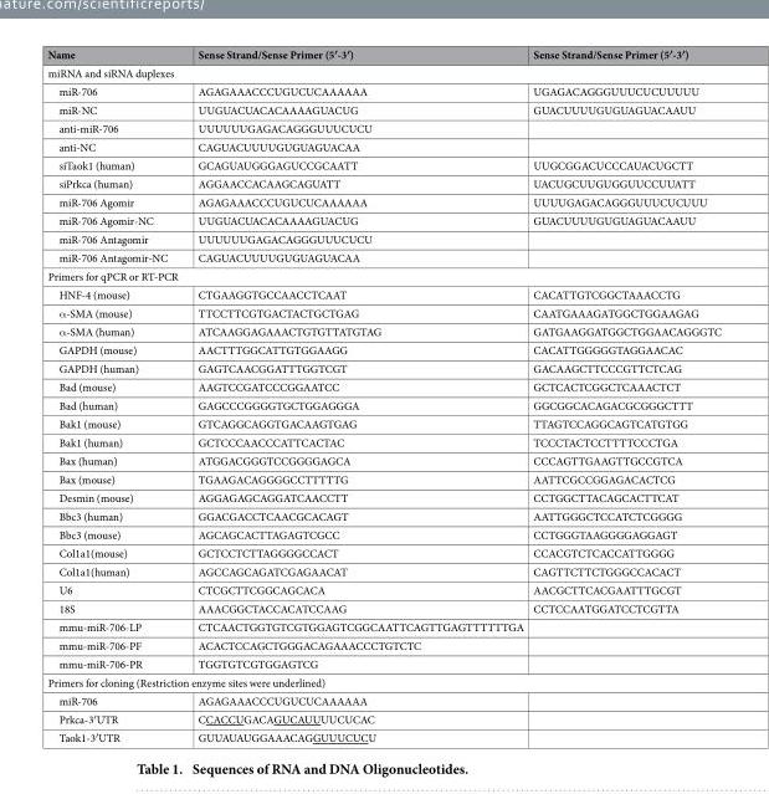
<table><thead><tr><td>Name</td><td>Sense Strand/Sense Primer (5′-3′)</td><td>Sense Strand/Sense Primer (5′-3′)</td></tr></thead><tbody><tr><td colspan="3">miRNA and siRNA duplexes</td></tr><tr><td>miR-706</td><td>AGAGAAACCCUGUCUCAAAAAA</td><td>UGAGACAGGGUUUCUCUUUUU</td></tr><tr><td>miR-NC</td><td>UUGUACUACACAAAAGUACUG</td><td>GUACUUUUGUGUAGUACAAUU</td></tr><tr><td>anti-miR-706</td><td>UUUUUUGAGACAGGGUUUCUCU</td><td></td></tr><tr><td>anti-NC</td><td>CAGUACUUUUGUGUAGUACAA</td><td></td></tr><tr><td>siTaok1 (human)</td><td>GCAGUAUGGGAGUCCGCAATT</td><td>UUGCGGACUCCCAUACUGCTT</td></tr><tr><td>siPrkca (human)</td><td>AGGAACCACAAGCAGUATT</td><td>UACUGCUUGUGGUUCCUUATT</td></tr><tr><td>miR-706 Agomir</td><td>AGAGAAACCCUGUCUCAAAAAA</td><td>UUUUGAGACAGGGUUUCUCUUU</td></tr><tr><td>miR-706 Agomir-NC</td><td>UUGUACUACACAAAAGUACUG</td><td>GUACUUUUGUGUAGUACAAUU</td></tr><tr><td>miR-706 Antagomir</td><td>UUUUUUGAGACAGGGUUUCUCU</td><td></td></tr><tr><td>miR-706 Antagomir-NC</td><td>CAGUACUUUUGUGUAGUACAA</td><td></td></tr><tr><td colspan="3">Primers for qPCR or RT-PCR</td></tr><tr><td>HNF-4 (mouse)</td><td>CTGAAGGTGCCAACCTCAAT</td><td>CACATTGTCGGCTAAACCTG</td></tr><tr><td>α -SMA (mouse)</td><td>TTCCTTCGTGACTACTGCTGAG</td><td>CAATGAAAGATGGCTGGAAGAG</td></tr><tr><td>α -SMA (human)</td><td>ATCAAGGAGAAACTGTGTTATGTAG</td><td>GATGAAGGATGGCTGGAACAGGGTC</td></tr><tr><td>GAPDH (mouse)</td><td>AACTTTGGCATTGTGGAAGG</td><td>CACATTGGGGGTAGGAACAC</td></tr><tr><td>GAPDH (human)</td><td>GAGTCAACGGATTTGGTCGT</td><td>GACAAGCTTCCCGTTCTCAG</td></tr><tr><td>Bad (mouse)</td><td>AAGTCCGATCCCGGAATCC</td><td>GCTCACTCGGCTCAAACTCT</td></tr><tr><td>Bad (human)</td><td>GAGCCCGGGGTGCTGGAGGGA</td><td>GGCGGCACAGACGCGGGCTTT</td></tr><tr><td>Bak1 (mouse)</td><td>GTCAGGCAGGTGACAAGTGAG</td><td>TTAGTCCAGGCAGTCATGTGG</td></tr><tr><td>Bak1 (human)</td><td>GCTCCCAACCCATTCACTAC</td><td>TCCCTACTCCTTTTCCCTGA</td></tr><tr><td>Bax (human)</td><td>ATGGACGGGTCCGGGGAGCA</td><td>CCCAGTTGAAGTTGCCGTCA</td></tr><tr><td>Bax (mouse)</td><td>TGAAGACAGGGGCCTTTTTG</td><td>AATTCGCCGGAGACACTCG</td></tr><tr><td>Desmin (mouse)</td><td>AGGAGAGCAGGATCAACCTT</td><td>CCTGGCTTACAGCACTTCAT</td></tr><tr><td>Bbc3 (human)</td><td>GGACGACCTCAACGCACAGT</td><td>AATTGGGCTCCATCTCGGGG</td></tr><tr><td>Bbc3 (mouse)</td><td>AGCAGCACTTAGAGTCGCC</td><td>CCTGGGTAAGGGGAGGAGT</td></tr><tr><td>Col1a1(mouse)</td><td>GCTCCTCTTAGGGGCCACT</td><td>CCACGTCTCACCATTGGGG</td></tr><tr><td>Col1a1(human)</td><td>AGCCAGCAGATCGAGAACAT</td><td>CAGTTCTTCTGGGCCACACT</td></tr><tr><td>U6</td><td>CTCGCTTCGGCAGCACA</td><td>AACGCTTCACGAATTTGCGT</td></tr><tr><td>18S</td><td>AAACGGCTACCACATCCAAG</td><td>CCTCCAATGGATCCTCGTTA</td></tr><tr><td>mmu-miR-706-LP</td><td>CTCAACTGGTGTCGTGGAGTCGGCAATTCAGTTGAGTTTTTTGA</td><td></td></tr><tr><td>mmu-miR-706-PF</td><td>ACACTCCAGCTGGGACAGAAACCCTGTCTC</td><td></td></tr><tr><td>mmu-miR-706-PR</td><td>TGGTGTCGTGGAGTCG</td><td></td></tr><tr><td colspan="3">Primers for cloning (Restriction enzyme sites were underlined)</td></tr><tr><td>miR-706</td><td>AGAGAAACCCUGUCUCAAAAAA</td><td></td></tr><tr><td>Prkca-3′ UTR</td><td>CCACCUGACAGUCAUUUUCUCAC</td><td></td></tr><tr><td>Taok1-3′ UTR</td><td>GUUAUAUGGAAACAGGUUUCUCU</td><td></td></tr></tbody></table>